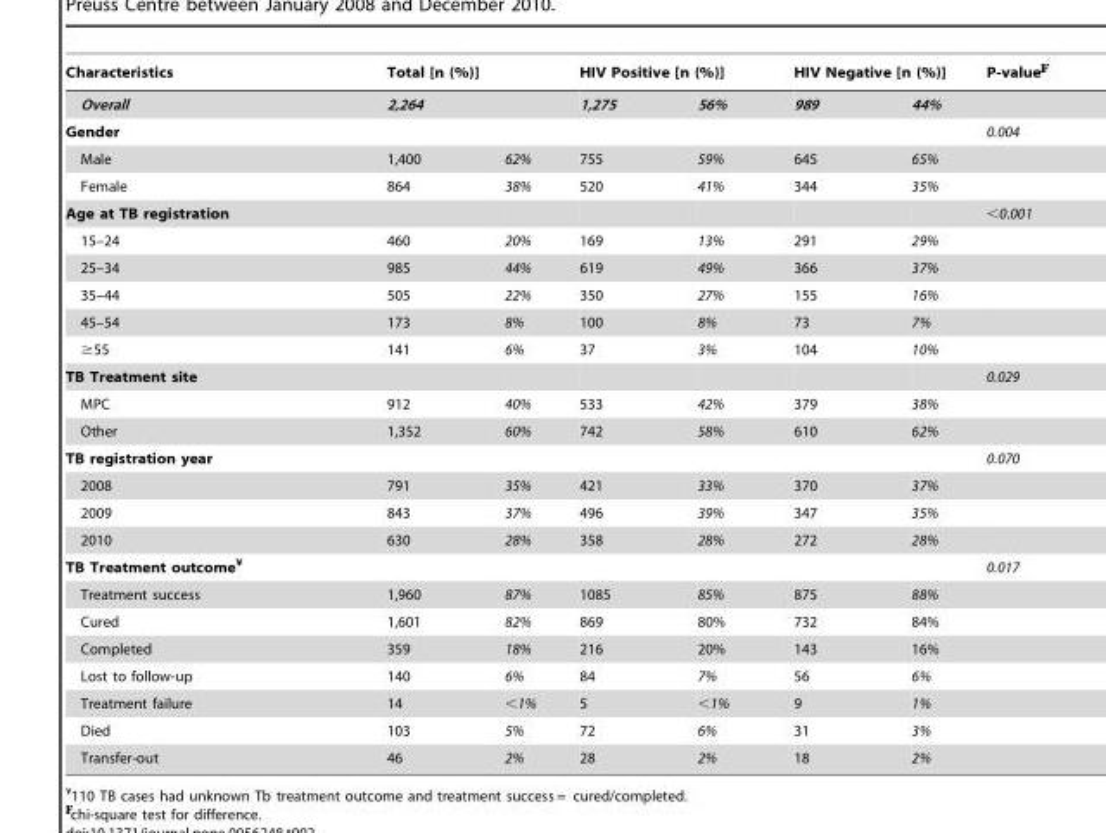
<table><thead><tr><td rowspan="3">Characteristics Overall Gender</td><td rowspan="2" colspan="2">Total [n (%)] 2,264</td><td colspan="2">HIV Positive [n (%)]</td><td colspan="2">HIV Negative [n (%)]</td><td rowspan="3">P-value 0.004</td></tr><tr><td rowspan="2">1,275</td><td rowspan="2">56%</td><td rowspan="2">989</td><td rowspan="2">44%</td></tr><tr><td></td><td></td></tr></thead><tbody><tr><td>Male</td><td>1,400</td><td>62%</td><td>755</td><td>59%</td><td>645</td><td>65%</td><td></td></tr><tr><td>Female</td><td>864</td><td>38%</td><td>520</td><td>41%</td><td>344</td><td>35%</td><td></td></tr><tr><td>Age at TB registration</td><td></td><td></td><td></td><td></td><td></td><td></td><td>&lt;0.001</td></tr><tr><td>15–24</td><td>460</td><td>20%</td><td>169</td><td>13%</td><td>291</td><td>29%</td><td></td></tr><tr><td>25–34</td><td>985</td><td>44%</td><td>619</td><td>49%</td><td>366</td><td>37%</td><td></td></tr><tr><td>35–44</td><td>505</td><td>22%</td><td>350</td><td>27%</td><td>155</td><td>16%</td><td></td></tr><tr><td>45–54</td><td>173</td><td>8%</td><td>100</td><td>8%</td><td>73</td><td>7%</td><td></td></tr><tr><td>≥55</td><td>141</td><td>6%</td><td>37</td><td>3%</td><td>104</td><td>10%</td><td></td></tr><tr><td>TB Treatment site</td><td></td><td></td><td></td><td></td><td></td><td></td><td>0.029</td></tr><tr><td>MPC</td><td>912</td><td>40%</td><td>533</td><td>42%</td><td>379</td><td>38%</td><td></td></tr><tr><td>Other</td><td>1,352</td><td>60%</td><td>742</td><td>58%</td><td>610</td><td>62%</td><td></td></tr><tr><td>TB registration year</td><td></td><td></td><td></td><td></td><td></td><td></td><td>0.070</td></tr><tr><td>2008</td><td>791</td><td>35%</td><td>421</td><td>33%</td><td>370</td><td>37%</td><td></td></tr><tr><td>2009</td><td>843</td><td>37%</td><td>496</td><td>39%</td><td>347</td><td>35%</td><td></td></tr><tr><td>2010</td><td>630</td><td>28%</td><td>358</td><td>28%</td><td>272</td><td>28%</td><td></td></tr><tr><td>TB Treatment outcome¥</td><td></td><td></td><td></td><td></td><td></td><td></td><td>0.017</td></tr><tr><td>Treatment success</td><td>1,960</td><td>87%</td><td>1085</td><td>85%</td><td>875</td><td>88%</td><td></td></tr><tr><td>Cured</td><td>1,601</td><td>82%</td><td>869</td><td>80%</td><td>732</td><td>84%</td><td></td></tr><tr><td>Completed</td><td>359</td><td>18%</td><td>216</td><td>20%</td><td>143</td><td>16%</td><td></td></tr><tr><td>Lost to follow-up</td><td>140</td><td>6%</td><td>84</td><td>7%</td><td>56</td><td>6%</td><td></td></tr><tr><td>Treatment failure</td><td>14</td><td>&lt;1%</td><td>5</td><td>&lt;1%</td><td>9</td><td>1%</td><td></td></tr><tr><td>Died</td><td>103</td><td>5%</td><td>72</td><td>6%</td><td>31</td><td>3%</td><td></td></tr><tr><td>Transfer-out</td><td>46</td><td>2%</td><td>28</td><td>2%</td><td>18</td><td>2%</td><td></td></tr></tbody></table>